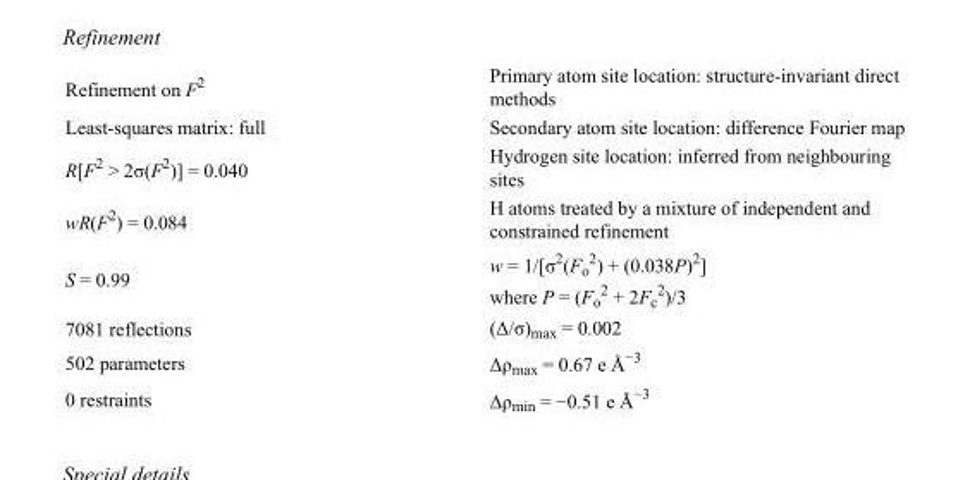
<table><tbody><tr><td>Refinement on F<sup>2</sup></td><td>Primary atom site location: structure-invariant direct methods</td></tr><tr><td>Least-squares matrix: full</td><td>Secondary atom site location: difference Fourier map</td></tr><tr><td>R[F<sup>2</sup> &gt; 2σ(F<sup>2</sup>)] = 0.040</td><td>Hydrogen site location: inferred from neighbouring sites</td></tr><tr><td>wR(F<sup>2</sup>) = 0.084</td><td>H atoms treated by a mixture of independent and constrained refinement</td></tr><tr><td>S = 0.99</td><td>w = 1/[σ<sup>2</sup>(F<sub>o</sub> <sup>2</sup>) + (0.038P)<sup>2</sup>] where P = (F<sub>o</sub> <sup>2</sup> + 2F<sub>c</sub> <sup>2</sup>)/3</td></tr><tr><td>7081 reflections</td><td>(Δ/σ)<sub>max</sub> = 0.002</td></tr><tr><td>502 parameters</td><td>Δρ<sub>max</sub> = 0.67 e Å<sup>−3</sup></td></tr><tr><td>0 restraints</td><td>Δρ<sub>min</sub> = −0.51 e Å<sup>−3</sup></td></tr></tbody></table>